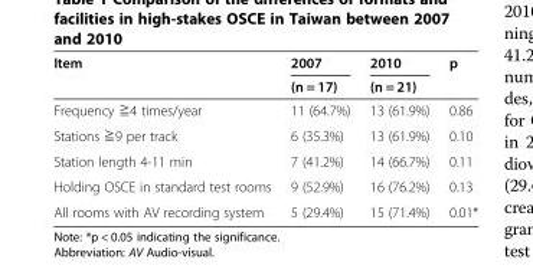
<table><thead><tr><td rowspan="2">Item</td><td rowspan="2">2007 (n = 17)</td><td rowspan="2">2010 (n = 21)</td><td rowspan="2">p</td></tr><tr></tr></thead><tbody><tr><td>Frequency ≧4 times/year</td><td>11 (64.7%)</td><td>13 (61.9%)</td><td>0.86</td></tr><tr><td>Stations ≧9 per track</td><td>6 (35.3%)</td><td>13 (61.9%)</td><td>0.10</td></tr><tr><td>Station length 4-11 min</td><td>7 (41.2%)</td><td>14 (66.7%)</td><td>0.11</td></tr><tr><td>Holding OSCE in standard test rooms</td><td>9 (52.9%)</td><td>16 (76.2%)</td><td>0.13</td></tr><tr><td>All rooms with AV recording system</td><td>5 (29.4%)</td><td>15 (71.4%)</td><td>0.01*</td></tr></tbody></table>